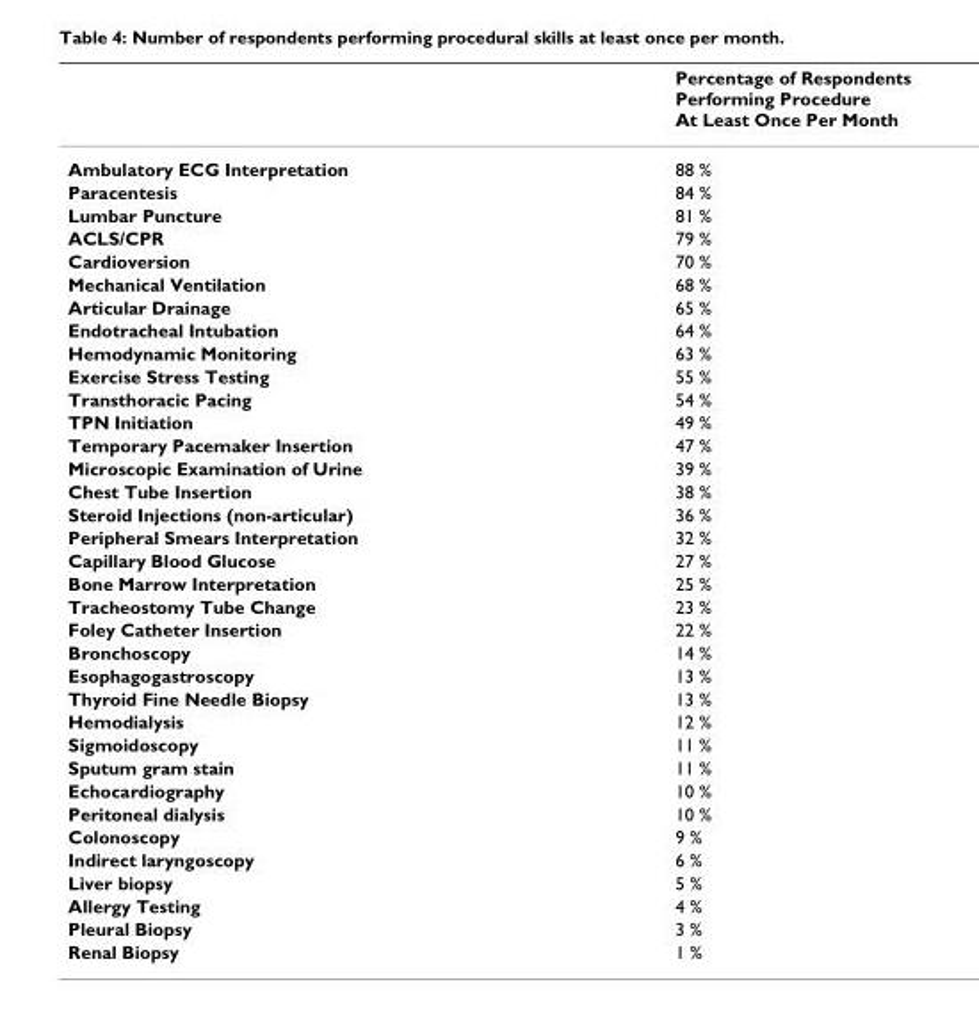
<table><thead><tr><td></td><td>Percentage of Respondents Performing Procedure At Least Once Per Month</td></tr></thead><tbody><tr><td>Ambulatory ECG Interpretation</td><td>88 %</td></tr><tr><td>Paracentesis</td><td>84 %</td></tr><tr><td>Lumbar Puncture</td><td>81 %</td></tr><tr><td>ACLS/CPR</td><td>79 %</td></tr><tr><td>Cardioversion</td><td>70 %</td></tr><tr><td>Mechanical Ventilation</td><td>68 %</td></tr><tr><td>Articular Drainage</td><td>65 %</td></tr><tr><td>Endotracheal Intubation</td><td>64 %</td></tr><tr><td>Hemodynamic Monitoring</td><td>63 %</td></tr><tr><td>Exercise Stress Testing</td><td>55 %</td></tr><tr><td>Transthoracic Pacing</td><td>54 %</td></tr><tr><td>TPN Initiation</td><td>49 %</td></tr><tr><td>Temporary Pacemaker Insertion</td><td>47 %</td></tr><tr><td>Microscopic Examination of Urine</td><td>39 %</td></tr><tr><td>Chest Tube Insertion</td><td>38 %</td></tr><tr><td>Steroid Injections (non-articular)</td><td>36 %</td></tr><tr><td>Peripheral Smears Interpretation</td><td>32 %</td></tr><tr><td>Capillary Blood Glucose</td><td>27 %</td></tr><tr><td>Bone Marrow Interpretation</td><td>25 %</td></tr><tr><td>Tracheostomy Tube Change</td><td>23 %</td></tr><tr><td>Foley Catheter Insertion</td><td>22 %</td></tr><tr><td>Bronchoscopy</td><td>14 %</td></tr><tr><td>Esophagogastroscopy</td><td>13 %</td></tr><tr><td>Thyroid Fine Needle Biopsy</td><td>13 %</td></tr><tr><td>Hemodialysis</td><td>12 %</td></tr><tr><td>Sigmoidoscopy</td><td>11 %</td></tr><tr><td>Sputum gram stain</td><td>11 %</td></tr><tr><td>Echocardiography</td><td>10 %</td></tr><tr><td>Peritoneal dialysis</td><td>10 %</td></tr><tr><td>Colonoscopy</td><td>9 %</td></tr><tr><td>Indirect laryngoscopy</td><td>6 %</td></tr><tr><td>Liver biopsy</td><td>5 %</td></tr><tr><td>Allergy Testing</td><td>4 %</td></tr><tr><td>Pleural Biopsy</td><td>3 %</td></tr><tr><td>Renal Biopsy</td><td>1 %</td></tr></tbody></table>